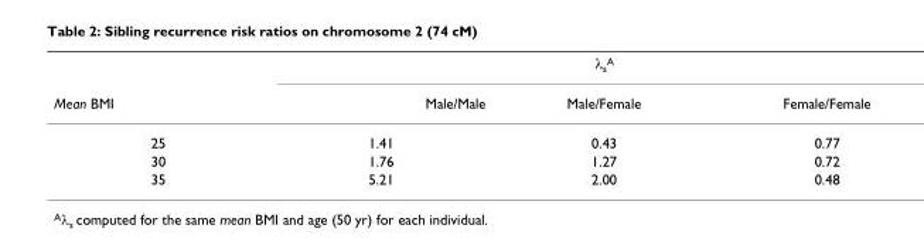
<table><thead><tr><td rowspan="2">Mean BMI</td><td colspan="3">λsA</td></tr><tr><td>Male/Male</td><td>Male/Female</td><td>Female/Female</td></tr></thead><tbody><tr><td>25</td><td>1.41</td><td>0.43</td><td>0.77</td></tr><tr><td>30</td><td>1.76</td><td>1.27</td><td>0.72</td></tr><tr><td>35</td><td>5.21</td><td>2.00</td><td>0.48</td></tr></tbody></table>